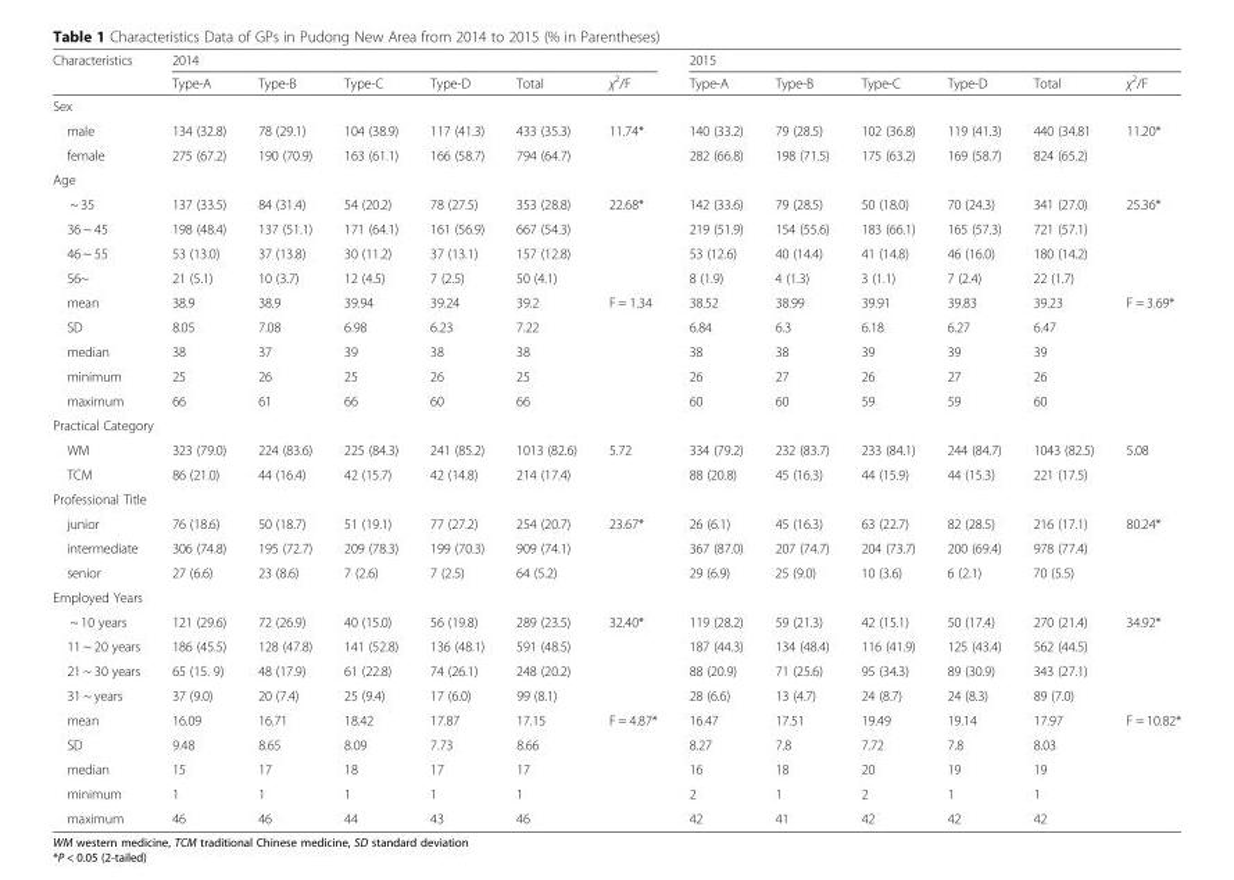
<table><thead><tr><td rowspan="2">Characteristics</td><td colspan="6">2014</td><td colspan="6">2015</td></tr><tr><td>Type-A</td><td>Type-B</td><td>Type-C</td><td>Type-D</td><td>Total</td><td>χ<sup>2</sup>/F</td><td>Type-A</td><td>Type-B</td><td>Type-C</td><td>Type-D</td><td>Total</td><td>χ<sup>2</sup>/F</td></tr></thead><tbody><tr><td colspan="13">Sex</td></tr><tr><td>male</td><td>134 (32.8)</td><td>78 (29.1)</td><td>104 (38.9)</td><td>117 (41.3)</td><td>433 (35.3)</td><td>11.74*</td><td>140 (33.2)</td><td>79 (28.5)</td><td>102 (36.8)</td><td>119 (41.3)</td><td>440 (34.81</td><td>11.20*</td></tr><tr><td>female</td><td>275 (67.2)</td><td>190 (70.9)</td><td>163 (61.1)</td><td>166 (58.7)</td><td>794 (64.7)</td><td></td><td>282 (66.8)</td><td>198 (71.5)</td><td>175 (63.2)</td><td>169 (58.7)</td><td>824 (65.2)</td><td></td></tr><tr><td colspan="13">Age</td></tr><tr><td>~ 35</td><td>137 (33.5)</td><td>84 (31.4)</td><td>54 (20.2)</td><td>78 (27.5)</td><td>353 (28.8)</td><td>22.68*</td><td>142 (33.6)</td><td>79 (28.5)</td><td>50 (18.0)</td><td>70 (24.3)</td><td>341 (27.0)</td><td>25.36*</td></tr><tr><td>36 ~ 45</td><td>198 (48.4)</td><td>137 (51.1)</td><td>171 (64.1)</td><td>161 (56.9)</td><td>667 (54.3)</td><td></td><td>219 (51.9)</td><td>154 (55.6)</td><td>183 (66.1)</td><td>165 (57.3)</td><td>721 (57.1)</td><td></td></tr><tr><td>46 ~ 55</td><td>53 (13.0)</td><td>37 (13.8)</td><td>30 (11.2)</td><td>37 (13.1)</td><td>157 (12.8)</td><td></td><td>53 (12.6)</td><td>40 (14.4)</td><td>41 (14.8)</td><td>46 (16.0)</td><td>180 (14.2)</td><td></td></tr><tr><td>56~</td><td>21 (5.1)</td><td>10 (3.7)</td><td>12 (4.5)</td><td>7 (2.5)</td><td>50 (4.1)</td><td></td><td>8 (1.9)</td><td>4 (1.3)</td><td>3 (1.1)</td><td>7 (2.4)</td><td>22 (1.7)</td><td></td></tr><tr><td>mean</td><td>38.9</td><td>38.9</td><td>39.94</td><td>39.24</td><td>39.2</td><td>F = 1.34</td><td>38.52</td><td>38.99</td><td>39.91</td><td>39.83</td><td>39.23</td><td>F = 3.69*</td></tr><tr><td>SD</td><td>8.05</td><td>7.08</td><td>6.98</td><td>6.23</td><td>7.22</td><td></td><td>6.84</td><td>6.3</td><td>6.18</td><td>6.27</td><td>6.47</td><td></td></tr><tr><td>median</td><td>38</td><td>37</td><td>39</td><td>38</td><td>38</td><td></td><td>38</td><td>38</td><td>39</td><td>39</td><td>39</td><td></td></tr><tr><td>minimum</td><td>25</td><td>26</td><td>25</td><td>26</td><td>25</td><td></td><td>26</td><td>27</td><td>26</td><td>27</td><td>26</td><td></td></tr><tr><td>maximum</td><td>66</td><td>61</td><td>66</td><td>60</td><td>66</td><td></td><td>60</td><td>60</td><td>59</td><td>59</td><td>60</td><td></td></tr><tr><td colspan="13">Practical Category</td></tr><tr><td>WM</td><td>323 (79.0)</td><td>224 (83.6)</td><td>225 (84.3)</td><td>241 (85.2)</td><td>1013 (82.6)</td><td>5.72</td><td>334 (79.2)</td><td>232 (83.7)</td><td>233 (84.1)</td><td>244 (84.7)</td><td>1043 (82.5)</td><td>5.08</td></tr><tr><td>TCM</td><td>86 (21.0)</td><td>44 (16.4)</td><td>42 (15.7)</td><td>42 (14.8)</td><td>214 (17.4)</td><td></td><td>88 (20.8)</td><td>45 (16.3)</td><td>44 (15.9)</td><td>44 (15.3)</td><td>221 (17.5)</td><td></td></tr><tr><td colspan="13">Professional Title</td></tr><tr><td>junior</td><td>76 (18.6)</td><td>50 (18.7)</td><td>51 (19.1)</td><td>77 (27.2)</td><td>254 (20.7)</td><td>23.67*</td><td>26 (6.1)</td><td>45 (16.3)</td><td>63 (22.7)</td><td>82 (28.5)</td><td>216 (17.1)</td><td>80.24*</td></tr><tr><td>intermediate</td><td>306 (74.8)</td><td>195 (72.7)</td><td>209 (78.3)</td><td>199 (70.3)</td><td>909 (74.1)</td><td></td><td>367 (87.0)</td><td>207 (74.7)</td><td>204 (73.7)</td><td>200 (69.4)</td><td>978 (77.4)</td><td></td></tr><tr><td>senior</td><td>27 (6.6)</td><td>23 (8.6)</td><td>7 (2.6)</td><td>7 (2.5)</td><td>64 (5.2)</td><td></td><td>29 (6.9)</td><td>25 (9.0)</td><td>10 (3.6)</td><td>6 (2.1)</td><td>70 (5.5)</td><td></td></tr><tr><td colspan="13">Employed Years</td></tr><tr><td>~ 10 years</td><td>121 (29.6)</td><td>72 (26.9)</td><td>40 (15.0)</td><td>56 (19.8)</td><td>289 (23.5)</td><td>32.40*</td><td>119 (28.2)</td><td>59 (21.3)</td><td>42 (15.1)</td><td>50 (17.4)</td><td>270 (21.4)</td><td>34.92*</td></tr><tr><td>11 ~ 20 years</td><td>186 (45.5)</td><td>128 (47.8)</td><td>141 (52.8)</td><td>136 (48.1)</td><td>591 (48.5)</td><td></td><td>187 (44.3)</td><td>134 (48.4)</td><td>116 (41.9)</td><td>125 (43.4)</td><td>562 (44.5)</td><td></td></tr><tr><td>21 ~ 30 years</td><td>65 (15. 9)</td><td>48 (17.9)</td><td>61 (22.8)</td><td>74 (26.1)</td><td>248 (20.2)</td><td></td><td>88 (20.9)</td><td>71 (25.6)</td><td>95 (34.3)</td><td>89 (30.9)</td><td>343 (27.1)</td><td></td></tr><tr><td>31 ~ years</td><td>37 (9.0)</td><td>20 (7.4)</td><td>25 (9.4)</td><td>17 (6.0)</td><td>99 (8.1)</td><td></td><td>28 (6.6)</td><td>13 (4.7)</td><td>24 (8.7)</td><td>24 (8.3)</td><td>89 (7.0)</td><td></td></tr><tr><td>mean</td><td>16.09</td><td>16.71</td><td>18.42</td><td>17.87</td><td>17.15</td><td>F = 4.87*</td><td>16.47</td><td>17.51</td><td>19.49</td><td>19.14</td><td>17.97</td><td>F = 10.82*</td></tr><tr><td>SD</td><td>9.48</td><td>8.65</td><td>8.09</td><td>7.73</td><td>8.66</td><td></td><td>8.27</td><td>7.8</td><td>7.72</td><td>7.8</td><td>8.03</td><td></td></tr><tr><td>median</td><td>15</td><td>17</td><td>18</td><td>17</td><td>17</td><td></td><td>16</td><td>18</td><td>20</td><td>19</td><td>19</td><td></td></tr><tr><td>minimum</td><td>1</td><td>1</td><td>1</td><td>1</td><td>1</td><td></td><td>2</td><td>1</td><td>2</td><td>1</td><td>1</td><td></td></tr><tr><td>maximum</td><td>46</td><td>46</td><td>44</td><td>43</td><td>46</td><td></td><td>42</td><td>41</td><td>42</td><td>42</td><td>42</td><td></td></tr></tbody></table>